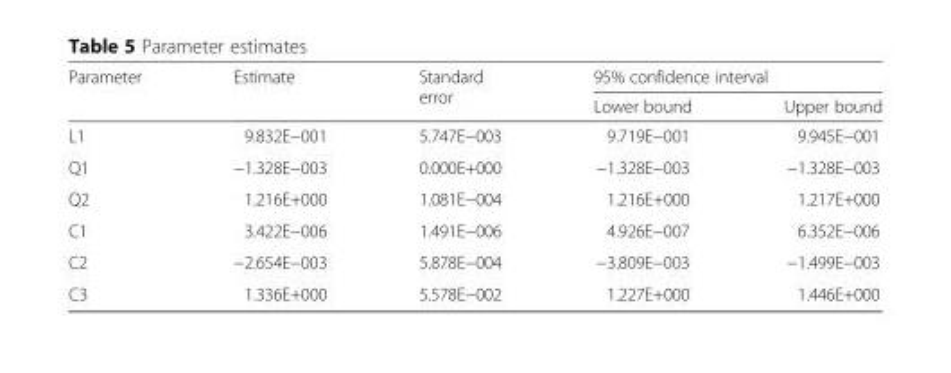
<table><thead><tr><td rowspan="2">Parameter</td><td rowspan="2">Estimate</td><td rowspan="2">Standard error</td><td colspan="2">95% confidence interval</td></tr><tr><td>Lower bound</td><td>Upper bound</td></tr></thead><tbody><tr><td>L1</td><td>9.832E−001</td><td>5.747E−003</td><td>9.719E−001</td><td>9.945E−001</td></tr><tr><td>Q1</td><td>−1.328E−003</td><td>0.000E+000</td><td>−1.328E−003</td><td>−1.328E−003</td></tr><tr><td>Q2</td><td>1.216E+000</td><td>1.081E−004</td><td>1.216E+000</td><td>1.217E+000</td></tr><tr><td>C1</td><td>3.422E−006</td><td>1.491E−006</td><td>4.926E−007</td><td>6.352E−006</td></tr><tr><td>C2</td><td>−2.654E−003</td><td>5.878E−004</td><td>−3.809E−003</td><td>−1.499E−003</td></tr><tr><td>C3</td><td>1.336E+000</td><td>5.578E−002</td><td>1.227E+000</td><td>1.446E+000</td></tr></tbody></table>